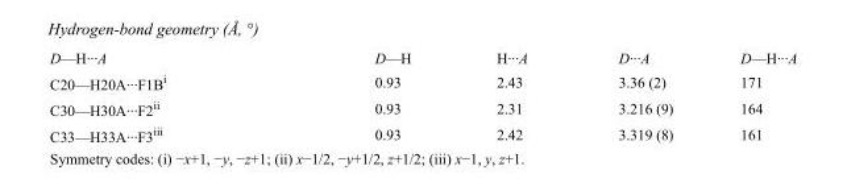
<table><tbody><tr><td>D—H···A</td><td>D—H</td><td>H···A</td><td>D···A</td><td>D—H···A</td></tr><tr><td>C20—H20A···F1B<sup>i</sup></td><td>0.93</td><td>2.43</td><td>3.36 (2)</td><td>171</td></tr><tr><td>C30—H30A···F2<sup>ii</sup></td><td>0.93</td><td>2.31</td><td>3.216 (9)</td><td>164</td></tr><tr><td>C33—H33A···F3<sup>iii</sup></td><td>0.93</td><td>2.42</td><td>3.319 (8)</td><td>161</td></tr></tbody></table>